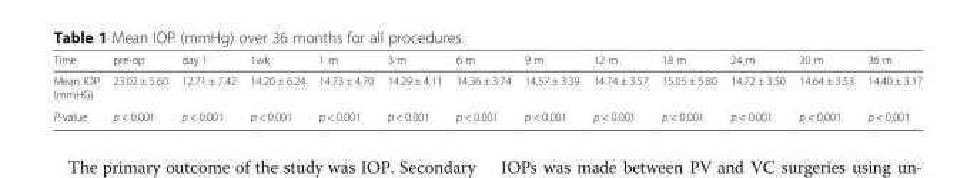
<table><thead><tr><td>Time</td><td>pre-op</td><td>day 1</td><td>1wk</td><td>1 m</td><td>3 m</td><td>6 m</td><td>9 m</td><td>12 m</td><td>18 m</td><td>24 m</td><td>30 m</td><td>36 m</td></tr></thead><tbody><tr><td>Mean IOP (mmHG)</td><td>23.02 ± 5.60</td><td>12.71 ± 7.42</td><td>14.20 ± 6.24</td><td>14.73 ± 4.70</td><td>14.29 ± 4.11</td><td>14.36 ± 3.74</td><td>14.57 ± 3.39</td><td>14.74 ± 3.57</td><td>15.05 ± 5.80</td><td>14.72 ± 3.50</td><td>14.64 ± 3.53</td><td>14.40 ± 3.17</td></tr><tr><td>P-value</td><td>p &lt; 0.001</td><td>p &lt; 0.001</td><td>p &lt; 0.001</td><td>p &lt; 0.001</td><td>p &lt; 0.001</td><td>p &lt; 0.001</td><td>p &lt; 0.001</td><td>p &lt; 0.001</td><td>p &lt; 0.001</td><td>p &lt; 0.001</td><td>p &lt; 0.001</td><td>p &lt; 0.001</td></tr></tbody></table>